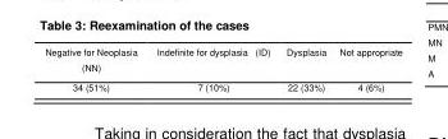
<table><thead><tr><td>Negative for Neoplasia (NN)</td><td>Indefinite for dysplasia (ID)</td><td>Dysplasia</td><td>Not appropriate</td></tr></thead><tbody><tr><td>34 (51%)</td><td>7 (10%)</td><td>22 (33%)</td><td>4 (6%)</td></tr></tbody></table>